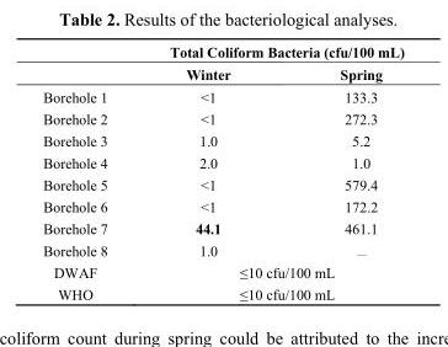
<table><thead><tr><td rowspan="2"></td><td colspan="2">Total Coliform Bacteria (cfu/100 mL)</td></tr><tr><td>Winter</td><td>Spring</td></tr></thead><tbody><tr><td>Borehole 1</td><td>&lt;1</td><td>133.3</td></tr><tr><td>Borehole 2</td><td>&lt;1</td><td>272.3</td></tr><tr><td>Borehole 3</td><td>1.0</td><td>5.2</td></tr><tr><td>Borehole 4</td><td>2.0</td><td>1.0</td></tr><tr><td>Borehole 5</td><td>&lt;1</td><td>579.4</td></tr><tr><td>Borehole 6</td><td>&lt;1</td><td>172.2</td></tr><tr><td>Borehole 7</td><td>44.1</td><td>461.1</td></tr><tr><td>Borehole 8</td><td>1.0</td><td><sub>—</sub></td></tr><tr><td>DWAF</td><td colspan="2">≤10 cfu/100 mL</td></tr><tr><td>WHO</td><td colspan="2">≤10 cfu/100 mL</td></tr></tbody></table>